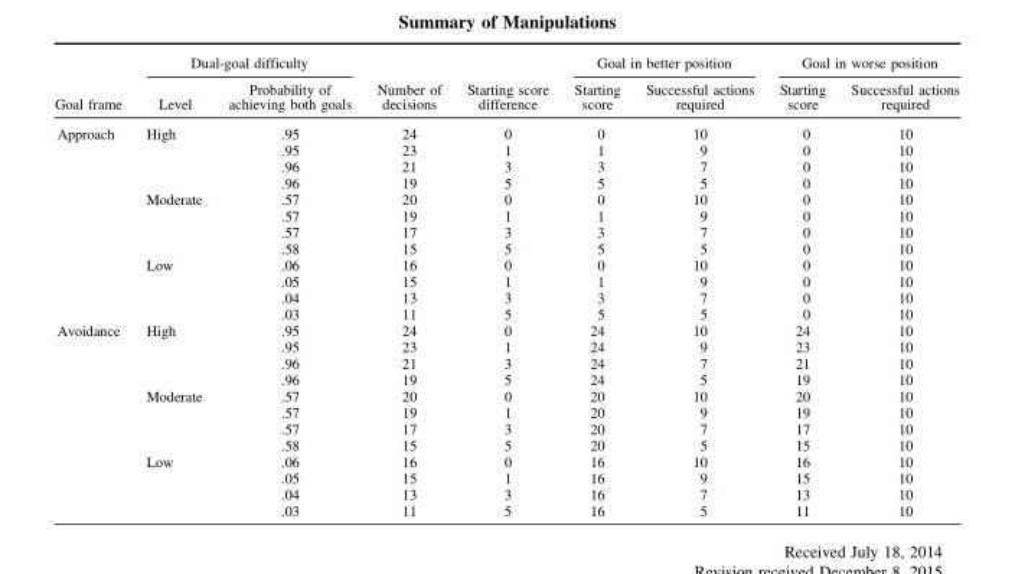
<table><thead><tr><td rowspan="2">Goal frame</td><td colspan="2">Dual-goal difficulty</td><td rowspan="2">Number of decisions</td><td rowspan="2">Starting score difference</td><td colspan="2">Goal in better position</td><td colspan="2">Goal in worse position</td></tr><tr><td>Level</td><td>Probability of achieving both goals</td><td>Starting score</td><td>Successful actions required</td><td>Starting score</td><td>Successful actions required</td></tr></thead><tbody><tr><td rowspan="12">Approach</td><td>High</td><td>.95</td><td>24</td><td>0</td><td>0</td><td>10</td><td>0</td><td>10</td></tr><tr><td></td><td>.95</td><td>23</td><td>1</td><td>1</td><td>9</td><td>0</td><td>10</td></tr><tr><td></td><td>.96</td><td>21</td><td>3</td><td>3</td><td>7</td><td>0</td><td>10</td></tr><tr><td></td><td>.96</td><td>19</td><td>5</td><td>5</td><td>5</td><td>0</td><td>10</td></tr><tr><td>Moderate</td><td>.57</td><td>20</td><td>0</td><td>0</td><td>10</td><td>0</td><td>10</td></tr><tr><td></td><td>.57</td><td>19</td><td>1</td><td>1</td><td>9</td><td>0</td><td>10</td></tr><tr><td></td><td>.57</td><td>17</td><td>3</td><td>3</td><td>7</td><td>0</td><td>10</td></tr><tr><td></td><td>.58</td><td>15</td><td>5</td><td>5</td><td>5</td><td>0</td><td>10</td></tr><tr><td>Low</td><td>.06</td><td>16</td><td>0</td><td>0</td><td>10</td><td>0</td><td>10</td></tr><tr><td></td><td>.05</td><td>15</td><td>1</td><td>1</td><td>9</td><td>0</td><td>10</td></tr><tr><td></td><td>.04</td><td>13</td><td>3</td><td>3</td><td>7</td><td>0</td><td>10</td></tr><tr><td></td><td>.03</td><td>11</td><td>5</td><td>5</td><td>5</td><td>0</td><td>10</td></tr><tr><td rowspan="12">Avoidance</td><td>High</td><td>.95</td><td>24</td><td>0</td><td>24</td><td>10</td><td>24</td><td>10</td></tr><tr><td></td><td>.95</td><td>23</td><td>1</td><td>24</td><td>9</td><td>23</td><td>10</td></tr><tr><td></td><td>.96</td><td>21</td><td>3</td><td>24</td><td>7</td><td>21</td><td>10</td></tr><tr><td></td><td>.96</td><td>19</td><td>5</td><td>24</td><td>5</td><td>19</td><td>10</td></tr><tr><td>Moderate</td><td>.57</td><td>20</td><td>0</td><td>20</td><td>10</td><td>20</td><td>10</td></tr><tr><td></td><td>.57</td><td>19</td><td>1</td><td>20</td><td>9</td><td>19</td><td>10</td></tr><tr><td></td><td>.57</td><td>17</td><td>3</td><td>20</td><td>7</td><td>17</td><td>10</td></tr><tr><td></td><td>.58</td><td>15</td><td>5</td><td>20</td><td>5</td><td>15</td><td>10</td></tr><tr><td>Low</td><td>.06</td><td>16</td><td>0</td><td>16</td><td>10</td><td>16</td><td>10</td></tr><tr><td></td><td>.05</td><td>15</td><td>1</td><td>16</td><td>9</td><td>15</td><td>10</td></tr><tr><td></td><td>.04</td><td>13</td><td>3</td><td>16</td><td>7</td><td>13</td><td>10</td></tr><tr><td></td><td>.03</td><td>11</td><td>5</td><td>16</td><td>5</td><td>11</td><td>10</td></tr></tbody></table>